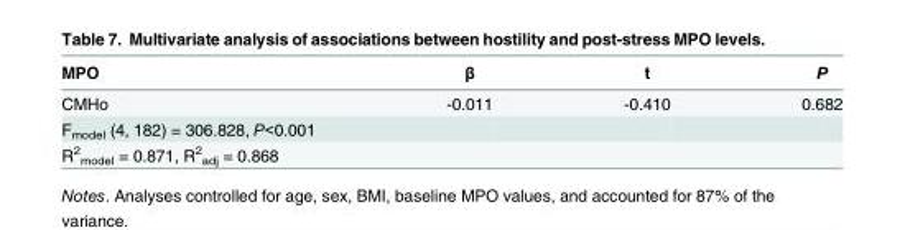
<table><thead><tr><td>MPO</td><td>β</td><td>t</td><td>P</td></tr></thead><tbody><tr><td>CMHo</td><td>-0.011</td><td>-0.410</td><td>0.682</td></tr><tr><td colspan="4">F<sub>model</sub> (4, 182) = 306.828, P&lt;0.001</td></tr><tr><td>R<sup>2</sup> <sub>model</sub> = 0.871, R<sup>2</sup> <sub>adj</sub> = 0.868</td><td></td><td></td><td></td></tr></tbody></table>